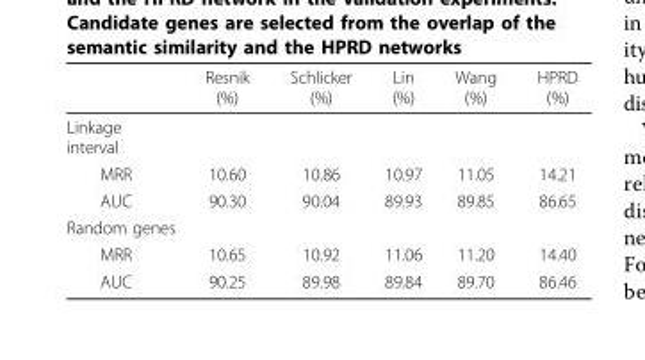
<table><thead><tr><td></td><td>Resnik (%)</td><td>Schlicker (%)</td><td>Lin (%)</td><td>Wang (%)</td><td>HPRD (%)</td></tr></thead><tbody><tr><td colspan="6">Linkage interval</td></tr><tr><td>MRR</td><td>10.60</td><td>10.86</td><td>10.97</td><td>11.05</td><td>14.21</td></tr><tr><td>AUC</td><td>90.30</td><td>90.04</td><td>89.93</td><td>89.85</td><td>86.65</td></tr><tr><td colspan="6">Random genes</td></tr><tr><td>MRR</td><td>10.65</td><td>10.92</td><td>11.06</td><td>11.20</td><td>14.40</td></tr><tr><td>AUC</td><td>90.25</td><td>89.98</td><td>89.84</td><td>89.70</td><td>86.46</td></tr></tbody></table>